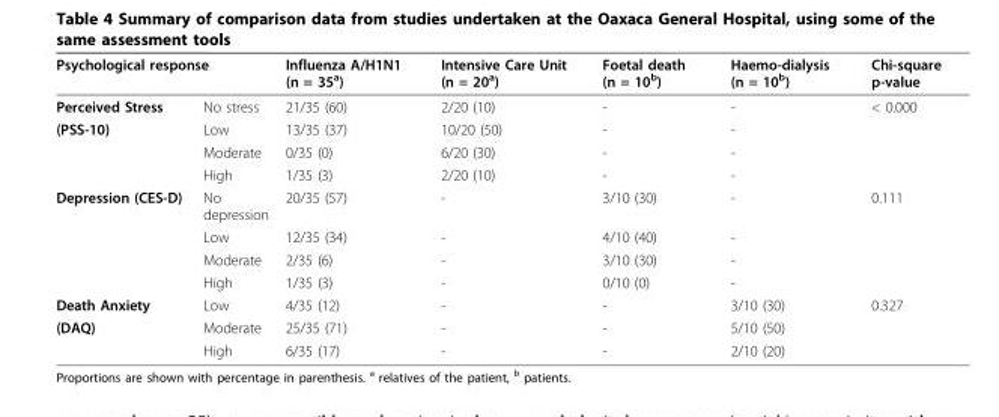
<table><thead><tr><td colspan="2">Psychological response</td><td rowspan="2">Influenza A/H1N1 (n = 35<sup>a</sup>) 21/35 (60)</td><td rowspan="2">Intensive Care Unit (n = 20<sup>a</sup>) 2/20 (10)</td><td rowspan="2">Foetal death (n = 10<sup>b</sup>) -</td><td rowspan="2">Haemo-dialysis (n = 10<sup>b</sup>) -</td><td rowspan="2">Chi-square p-value &lt; 0.000</td></tr><tr><td>Perceived Stress</td><td>No stress</td></tr></thead><tbody><tr><td>(PSS-10)</td><td>Low</td><td>13/35 (37)</td><td>10/20 (50)</td><td>-</td><td>-</td><td></td></tr><tr><td></td><td>Moderate</td><td>0/35 (0)</td><td>6/20 (30)</td><td>-</td><td>-</td><td></td></tr><tr><td></td><td>High</td><td>1/35 (3)</td><td>2/20 (10)</td><td>-</td><td>-</td><td></td></tr><tr><td rowspan="4">Depression (CES-D)</td><td>No depression</td><td>20/35 (57)</td><td>-</td><td>3/10 (30)</td><td>-</td><td>0.111</td></tr><tr><td>Low</td><td>12/35 (34)</td><td>-</td><td>4/10 (40)</td><td>-</td><td></td></tr><tr><td>Moderate</td><td>2/35 (6)</td><td>-</td><td>3/10 (30)</td><td>-</td><td></td></tr><tr><td>High</td><td>1/35 (3)</td><td>-</td><td>0/10 (0)</td><td>-</td><td></td></tr><tr><td rowspan="3">Death Anxiety (DAQ)</td><td>Low</td><td>4/35 (12)</td><td>-</td><td>-</td><td>3/10 (30)</td><td>0.327</td></tr><tr><td>Moderate</td><td>25/35 (71)</td><td>-</td><td>-</td><td>5/10 (50)</td><td></td></tr><tr><td>High</td><td>6/35 (17)</td><td>-</td><td>-</td><td>2/10 (20)</td><td></td></tr></tbody></table>